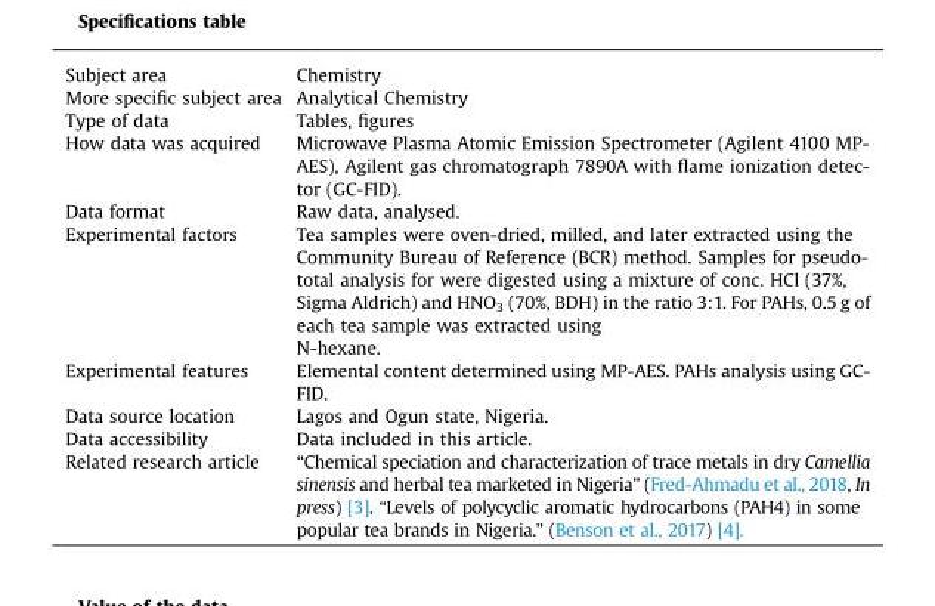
<table><tbody><tr><td>Subject area</td><td>Chemistry</td></tr><tr><td>More specific subject area</td><td>Analytical Chemistry</td></tr><tr><td>Type of data</td><td>Tables, figures</td></tr><tr><td>How data was acquired</td><td>Microwave Plasma Atomic Emission Spectrometer (Agilent 4100 MP- AES), Agilent gas chromatograph 7890A with flame ionization detec- tor (GC-FID).</td></tr><tr><td>Data format</td><td>Raw data, analysed.</td></tr><tr><td>Experimental factors</td><td>Tea samples were oven-dried, milled, and later extracted using the Community Bureau of Reference (BCR) method. Samples for pseudo- total analysis for were digested using a mixture of conc. HCl (37%, Sigma Aldrich) and HNO<sub>3</sub> (70%, BDH) in the ratio 3:1. For PAHs, 0.5 g of each tea sample was extracted using N-hexane.</td></tr><tr><td>Experimental features</td><td>Elemental content determined using MP-AES. PAHs analysis using GC- FID.</td></tr><tr><td>Data source location</td><td>Lagos and Ogun state, Nigeria.</td></tr><tr><td>Data accessibility</td><td>Data included in this article.</td></tr><tr><td>Related research article</td><td>“Chemical speciation and characterization of trace metals in dry Camellia sinensis and herbal tea marketed in Nigeria” (Fred-Ahmadu et al., 2018, In press) [3]. “Levels of polycyclic aromatic hydrocarbons (PAH4) in some popular tea brands in Nigeria.” (Benson et al., 2017) [4].</td></tr></tbody></table>